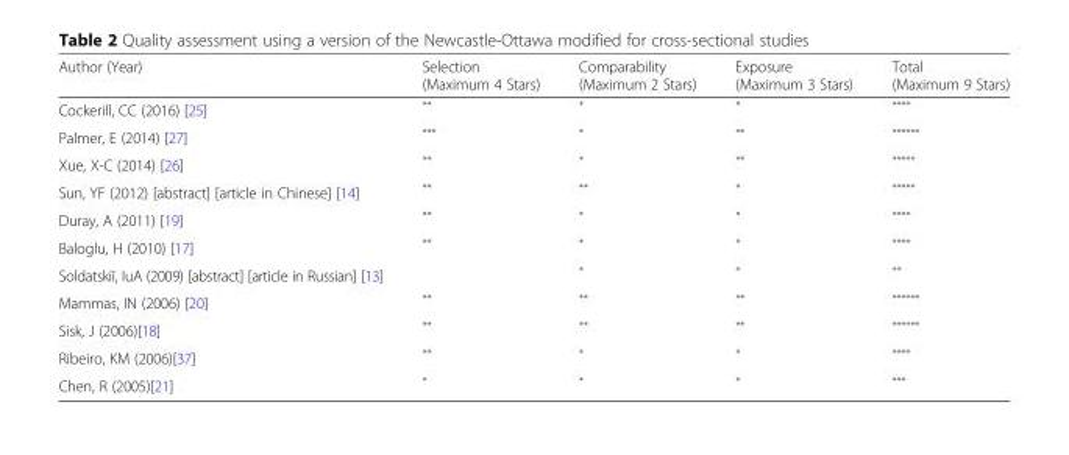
<table><thead><tr><td>Author (Year)</td><td>Selection (Maximum 4 Stars)</td><td>Comparability (Maximum 2 Stars)</td><td>Exposure (Maximum 3 Stars)</td><td>Total (Maximum 9 Stars)</td></tr></thead><tbody><tr><td>Cockerill, CC (2016) [25]</td><td>**</td><td>*</td><td>*</td><td>****</td></tr><tr><td>Palmer, E (2014) [27]</td><td>***</td><td>*</td><td>**</td><td>******</td></tr><tr><td>Xue, X-C (2014) [26]</td><td>**</td><td>*</td><td>**</td><td>*****</td></tr><tr><td>Sun, YF (2012) [abstract] [article in Chinese] [14]</td><td>**</td><td>**</td><td>*</td><td>*****</td></tr><tr><td>Duray, A (2011) [19]</td><td>**</td><td>*</td><td>*</td><td>****</td></tr><tr><td>Baloglu, H (2010) [17]</td><td>**</td><td>*</td><td>*</td><td>****</td></tr><tr><td>Soldatskiĭ, IuA (2009) [abstract] [article in Russian] [13]</td><td></td><td>*</td><td>*</td><td>**</td></tr><tr><td>Mammas, IN (2006) [20]</td><td>**</td><td>**</td><td>**</td><td>******</td></tr><tr><td>Sisk, J (2006)[18]</td><td>**</td><td>**</td><td>**</td><td>******</td></tr><tr><td>Ribeiro, KM (2006)[37]</td><td>**</td><td>*</td><td>*</td><td>****</td></tr><tr><td>Chen, R (2005)[21]</td><td>*</td><td>*</td><td>*</td><td>***</td></tr></tbody></table>